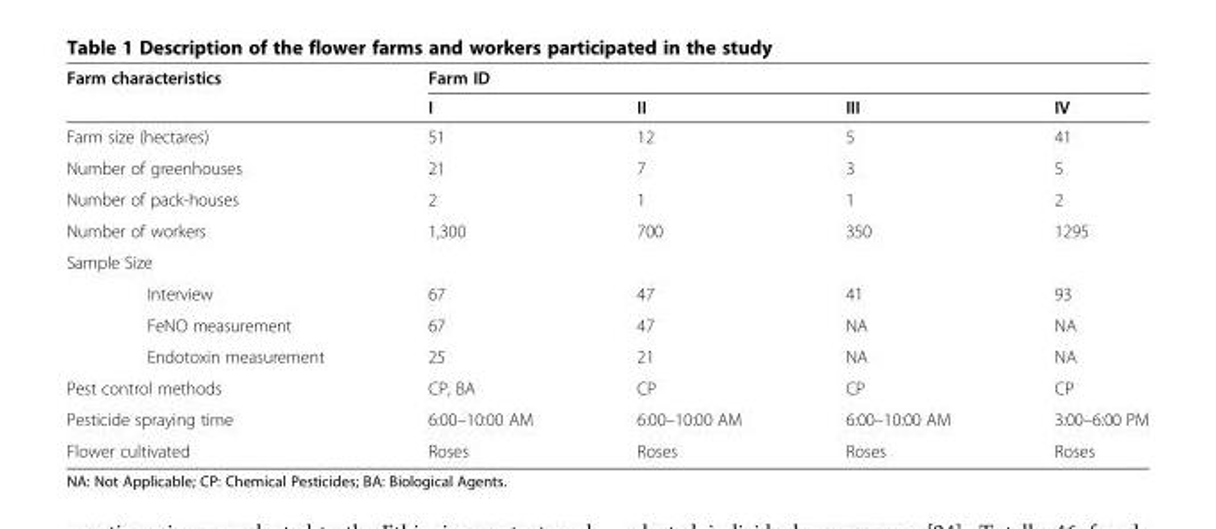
<table><thead><tr><td rowspan="2">Farm characteristics</td><td colspan="4">Farm ID</td></tr><tr><td>I</td><td>II</td><td>III</td><td>IV</td></tr></thead><tbody><tr><td>Farm size (hectares)</td><td>51</td><td>12</td><td>5</td><td>41</td></tr><tr><td>Number of greenhouses</td><td>21</td><td>7</td><td>3</td><td>5</td></tr><tr><td>Number of pack-houses</td><td>2</td><td>1</td><td>1</td><td>2</td></tr><tr><td>Number of workers</td><td>1,300</td><td>700</td><td>350</td><td>1295</td></tr><tr><td colspan="5">Sample Size</td></tr><tr><td>Interview</td><td>67</td><td>47</td><td>41</td><td>93</td></tr><tr><td>FeNO measurement</td><td>67</td><td>47</td><td>NA</td><td>NA</td></tr><tr><td>Endotoxin measurement</td><td>25</td><td>21</td><td>NA</td><td>NA</td></tr><tr><td>Pest control methods</td><td>CP, BA</td><td>CP</td><td>CP</td><td>CP</td></tr><tr><td>Pesticide spraying time</td><td>6:00–10:00 AM</td><td>6:00–10:00 AM</td><td>6:00–10:00 AM</td><td>3:00–6:00 PM</td></tr><tr><td>Flower cultivated</td><td>Roses</td><td>Roses</td><td>Roses</td><td>Roses</td></tr></tbody></table>